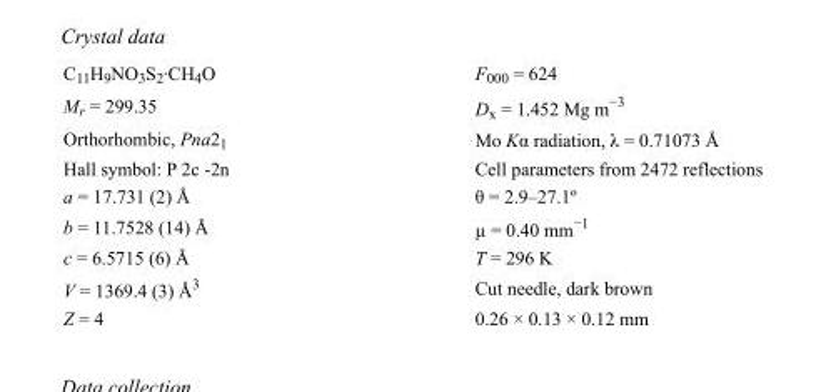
<table><tbody><tr><td>C<sub>11</sub>H<sub>9</sub>NO<sub>3</sub>S<sub>2</sub>·CH<sub>4</sub>O</td><td>F000 = 624</td></tr><tr><td>M<sub>r</sub> = 299.35</td><td>D<sub>x</sub> = 1.452 Mg m<sup>−3</sup></td></tr><tr><td>Orthorhombic, Pna2<sub>1</sub></td><td>Mo Kα radiation, λ = 0.71073 Å</td></tr><tr><td>Hall symbol: P 2c -2n</td><td>Cell parameters from 2472 reflections</td></tr><tr><td>a = 17.731 (2) Å</td><td>θ = 2.9–27.1º</td></tr><tr><td>b = 11.7528 (14) Å</td><td>µ = 0.40 mm<sup>−1</sup></td></tr><tr><td>c = 6.5715 (6) Å</td><td>T = 296 K</td></tr><tr><td>V = 1369.4 (3) Å<sup>3</sup></td><td>Cut needle, dark brown</td></tr><tr><td>Z = 4</td><td>0.26 × 0.13 × 0.12 mm</td></tr></tbody></table>